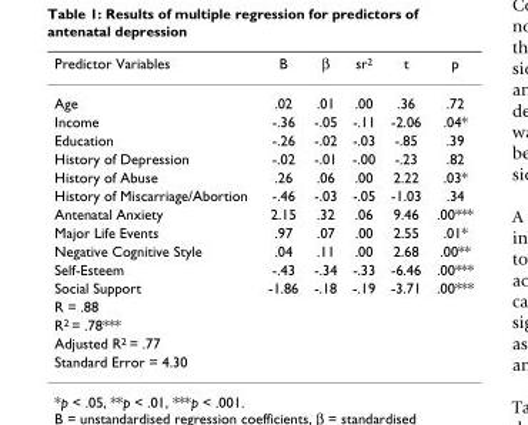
<table><thead><tr><td>Predictor Variables</td><td>B</td><td>β</td><td>sr<sup>2</sup></td><td>t</td><td>p</td></tr></thead><tbody><tr><td>Age</td><td>.02</td><td>.01</td><td>.00</td><td>.36</td><td>.72</td></tr><tr><td>Income</td><td>-.36</td><td>-.05</td><td>-.11</td><td>-2.06</td><td>.04*</td></tr><tr><td>Education</td><td>-.26</td><td>-.02</td><td>-.03</td><td>-.85</td><td>.39</td></tr><tr><td>History of Depression</td><td>-.02</td><td>-.01</td><td>-.00</td><td>-.23</td><td>.82</td></tr><tr><td>History of Abuse</td><td>.26</td><td>.06</td><td>.00</td><td>2.22</td><td>.03*</td></tr><tr><td>History of Miscarriage/Abortion</td><td>-.46</td><td>-.03</td><td>-.05</td><td>-1.03</td><td>.34</td></tr><tr><td>Antenatal Anxiety</td><td>2.15</td><td>.32</td><td>.06</td><td>9.46</td><td>.00***</td></tr><tr><td>Major Life Events</td><td>.97</td><td>.07</td><td>.00</td><td>2.55</td><td>.01*</td></tr><tr><td>Negative Cognitive Style</td><td>.04</td><td>.11</td><td>.00</td><td>2.68</td><td>.00**</td></tr><tr><td>Self-Esteem</td><td>-.43</td><td>-.34</td><td>-.33</td><td>-6.46</td><td>.00***</td></tr><tr><td>Social Support</td><td>-1.86</td><td>-.18</td><td>-.19</td><td>-3.71</td><td>.00***</td></tr><tr><td colspan="6">R = .88</td></tr><tr><td colspan="6">R<sup>2</sup> = .78***</td></tr><tr><td colspan="6">Adjusted R<sup>2</sup> = .77</td></tr><tr><td>Standard Error = 4.30</td><td></td><td></td><td></td><td></td><td></td></tr></tbody></table>